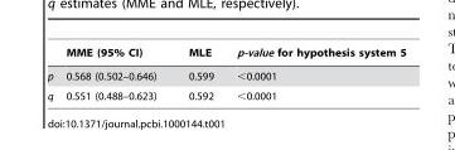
<table><thead><tr><td></td><td>MME (95% CI)</td><td>MLE</td><td>p-value for hypothesis system 5</td></tr></thead><tbody><tr><td>p</td><td>0.568 (0.502–0.646)</td><td>0.599</td><td>&lt;0.0001</td></tr><tr><td>q</td><td>0.551 (0.488–0.623)</td><td>0.592</td><td>&lt;0.0001</td></tr></tbody></table>